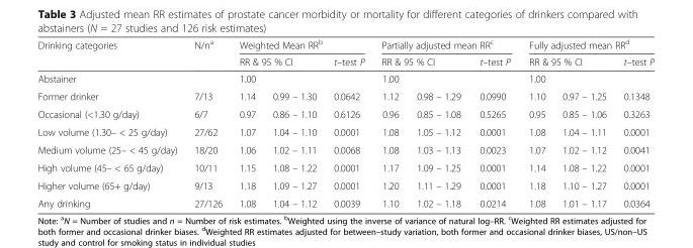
<table><thead><tr><td rowspan="3">Drinking categories Abstainer</td><td rowspan="3">N/n<sup>a</sup></td><td colspan="3">Weighted Mean RR<sup>b</sup></td><td colspan="3">Partially adjusted mean RR<sup>c</sup></td><td colspan="3">Fully adjusted mean RR<sup>d</sup></td></tr><tr><td colspan="2">RR &amp; 95 % CI</td><td rowspan="2">t–test P</td><td colspan="2">RR &amp; 95 % CI</td><td rowspan="2">t–test P</td><td colspan="2">RR &amp; 95 % CI</td><td rowspan="2">t–test P</td></tr><tr><td>1.00</td><td></td><td>1.00</td><td></td><td>1.00</td><td></td></tr></thead><tbody><tr><td>Former drinker</td><td>7/13</td><td>1.14</td><td>0.99 – 1.30</td><td>0.0642</td><td>1.12</td><td>0.98 – 1.29</td><td>0.0990</td><td>1.10</td><td>0.97 – 1.25</td><td>0.1348</td></tr><tr><td>Occasional (&lt;1.30 g/day)</td><td>6/7</td><td>0.97</td><td>0.86 – 1.10</td><td>0.6126</td><td>0.96</td><td>0.85 – 1.08</td><td>0.5265</td><td>0.95</td><td>0.85 – 1.06</td><td>0.3263</td></tr><tr><td>Low volume (1.30– &lt; 25 g/day)</td><td>27/62</td><td>1.07</td><td>1.04 – 1.10</td><td>0.0001</td><td>1.08</td><td>1.05 – 1.12</td><td>0.0001</td><td>1.08</td><td>1.04 – 1.11</td><td>0.0001</td></tr><tr><td>Medium volume (25– &lt; 45 g/day)</td><td>18/20</td><td>1.06</td><td>1.02 – 1.11</td><td>0.0068</td><td>1.08</td><td>1.03 – 1.13</td><td>0.0023</td><td>1.07</td><td>1.02 – 1.12</td><td>0.0041</td></tr><tr><td>High volume (45– &lt; 65 g/day)</td><td>10/11</td><td>1.15</td><td>1.08 – 1.22</td><td>0.0001</td><td>1.17</td><td>1.09 – 1.25</td><td>0.0001</td><td>1.14</td><td>1.08 – 1.22</td><td>0.0001</td></tr><tr><td>Higher volume (65+ g/day)</td><td>9/13</td><td>1.18</td><td>1.09 – 1.27</td><td>0.0001</td><td>1.20</td><td>1.11 – 1.29</td><td>0.0001</td><td>1.18</td><td>1.10 – 1.27</td><td>0.0001</td></tr><tr><td>Any drinking</td><td>27/126</td><td>1.08</td><td>1.04 – 1.12</td><td>0.0039</td><td>1.10</td><td>1.02 – 1.18</td><td>0.0214</td><td>1.08</td><td>1.01 – 1.17</td><td>0.0364</td></tr></tbody></table>